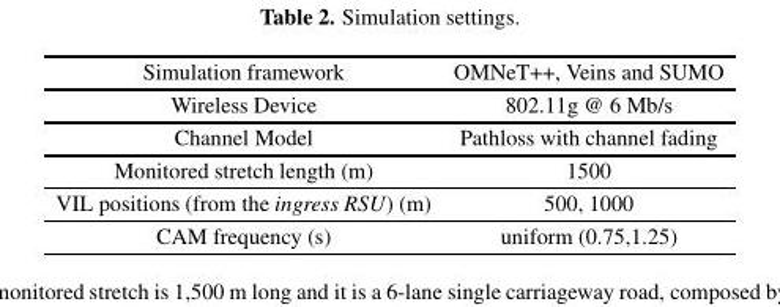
<table><tbody><tr><td>Simulation framework</td><td>OMNeT++, Veins and SUMO</td></tr><tr><td>Wireless Device</td><td>802.11g @ 6 Mb/s</td></tr><tr><td>Channel Model</td><td>Pathloss with channel fading</td></tr><tr><td>Monitored stretch length (m)</td><td>1500</td></tr><tr><td>VIL positions (from the ingress RSU) (m)</td><td>500, 1000</td></tr><tr><td>CAM frequency (s)</td><td>uniform (0.75,1.25)</td></tr></tbody></table>